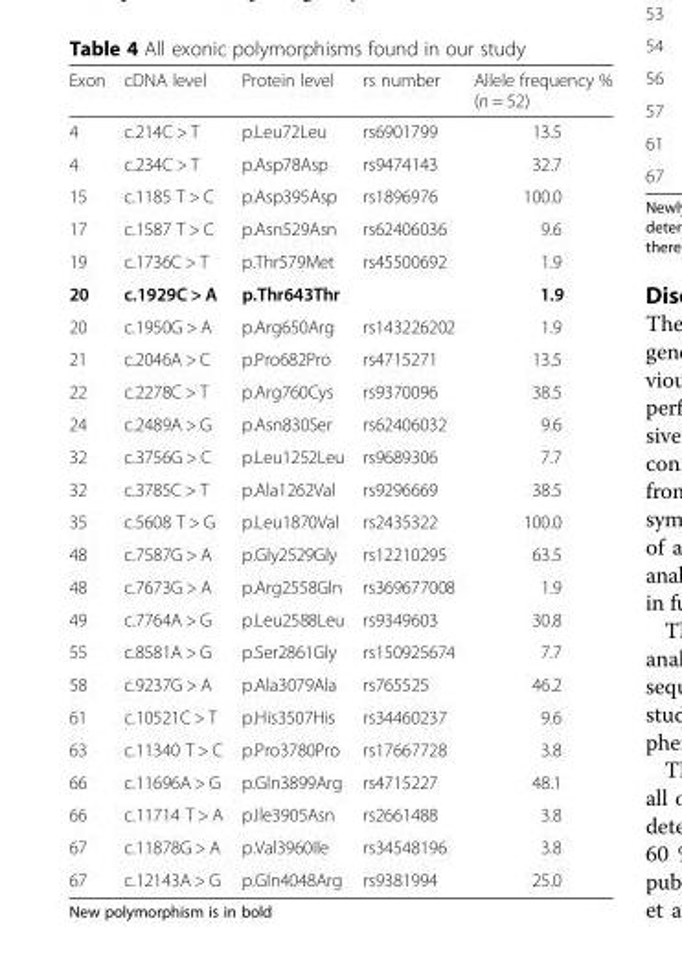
<table><thead><tr><td>Exon</td><td>cDNA level</td><td>Protein level</td><td>rs number</td><td>Allele frequency % (n = 52)</td></tr></thead><tbody><tr><td>4</td><td>c.214C &gt; T</td><td>p.Leu72Leu</td><td>rs6901799</td><td>13.5</td></tr><tr><td>4</td><td>c.234C &gt; T</td><td>p.Asp78Asp</td><td>rs9474143</td><td>32.7</td></tr><tr><td>15</td><td>c.1185 T &gt; C</td><td>p.Asp395Asp</td><td>rs1896976</td><td>100.0</td></tr><tr><td>17</td><td>c.1587 T &gt; C</td><td>p.Asn529Asn</td><td>rs62406036</td><td>9.6</td></tr><tr><td>19</td><td>c.1736C &gt; T</td><td>p.Thr579Met</td><td>rs45500692</td><td>1.9</td></tr><tr><td>20</td><td>c.1929C &gt; A</td><td>p.Thr643Thr</td><td></td><td>1.9</td></tr><tr><td>20</td><td>c.1950G &gt; A</td><td>p.Arg650Arg</td><td>rs143226202</td><td>1.9</td></tr><tr><td>21</td><td>c.2046A &gt; C</td><td>p.Pro682Pro</td><td>rs4715271</td><td>13.5</td></tr><tr><td>22</td><td>c.2278C &gt; T</td><td>p.Arg760Cys</td><td>rs9370096</td><td>38.5</td></tr><tr><td>24</td><td>c.2489A &gt; G</td><td>p.Asn830Ser</td><td>rs62406032</td><td>9.6</td></tr><tr><td>32</td><td>c.3756G &gt; C</td><td>p.Leu1252Leu</td><td>rs9689306</td><td>7.7</td></tr><tr><td>32</td><td>c.3785C &gt; T</td><td>p.Ala1262Val</td><td>rs9296669</td><td>38.5</td></tr><tr><td>35</td><td>c.5608 T &gt; G</td><td>p.Leu1870Val</td><td>rs2435322</td><td>100.0</td></tr><tr><td>48</td><td>c.7587G &gt; A</td><td>p.Gly2529Gly</td><td>rs12210295</td><td>63.5</td></tr><tr><td>48</td><td>c.7673G &gt; A</td><td>p.Arg2558Gln</td><td>rs369677008</td><td>1.9</td></tr><tr><td>49</td><td>c.7764A &gt; G</td><td>p.Leu2588Leu</td><td>rs9349603</td><td>30.8</td></tr><tr><td>55</td><td>c.8581A &gt; G</td><td>p.Ser2861Gly</td><td>rs150925674</td><td>7.7</td></tr><tr><td>58</td><td>c.9237G &gt; A</td><td>p.Ala3079Ala</td><td>rs765525</td><td>46.2</td></tr><tr><td>61</td><td>c.10521C &gt; T</td><td>p.His3507His</td><td>rs34460237</td><td>9.6</td></tr><tr><td>63</td><td>c.11340 T &gt; C</td><td>p.Pro3780Pro</td><td>rs17667728</td><td>3.8</td></tr><tr><td>66</td><td>c.11696A &gt; G</td><td>p.Gln3899Arg</td><td>rs4715227</td><td>48.1</td></tr><tr><td>66</td><td>c.11714 T &gt; A</td><td>p.Ile3905Asn</td><td>rs2661488</td><td>3.8</td></tr><tr><td>67</td><td>c.11878G &gt; A</td><td>p.Val3960Ile</td><td>rs34548196</td><td>3.8</td></tr><tr><td>67</td><td>c.12143A &gt; G</td><td>p.Gln4048Arg</td><td>rs9381994</td><td>25.0</td></tr></tbody></table>